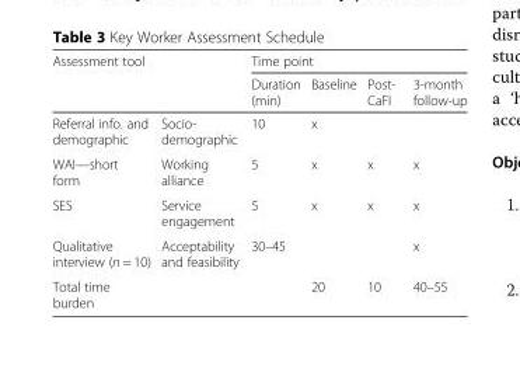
<table><thead><tr><td rowspan="2">Assessment tool</td><td rowspan="2"></td><td colspan="4">Time point</td></tr><tr><td>Duration (min)</td><td>Baseline</td><td>Post- CaFI</td><td>3-month follow-up</td></tr></thead><tbody><tr><td>Referral info. and demographic</td><td>Socio- demographic</td><td>10</td><td>x</td><td></td><td></td></tr><tr><td>WAI—short form</td><td>Working alliance</td><td>5</td><td>x</td><td>x</td><td>x</td></tr><tr><td>SES</td><td>Service engagement</td><td>5</td><td>x</td><td>x</td><td>x</td></tr><tr><td>Qualitative interview (n = 10)</td><td>Acceptability and feasibility</td><td>30–45</td><td></td><td></td><td>x</td></tr><tr><td>Total time burden</td><td></td><td></td><td>20</td><td>10</td><td>40–55</td></tr></tbody></table>